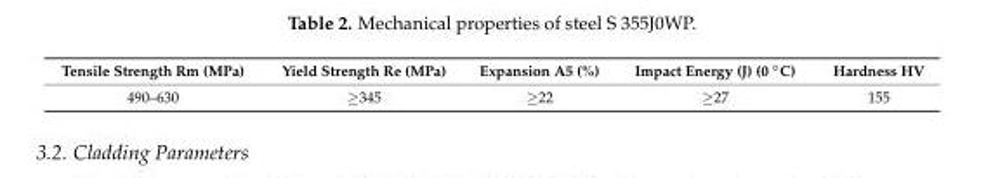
<table><thead><tr><td>Tensile Strength Rm (MPa)</td><td>Yield Strength Re (MPa)</td><td>Expansion A5 (%)</td><td>Impact Energy (J) (0 ◦C)</td><td>Hardness HV</td></tr></thead><tbody><tr><td>490–630</td><td>≥345</td><td>≥22</td><td>≥27</td><td>155</td></tr></tbody></table>